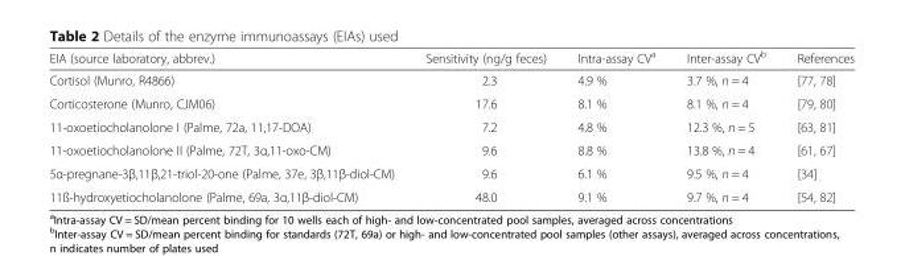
<table><thead><tr><td>EIA (source laboratory, abbrev.)</td><td>Sensitivity (ng/g feces)</td><td>Intra-assay CV<sup>a</sup></td><td>Inter-assay CV<sup>b</sup></td><td>References</td></tr></thead><tbody><tr><td>Cortisol (Munro, R4866)</td><td>2.3</td><td>4.9 %</td><td>3.7 %, n = 4</td><td>[77, 78]</td></tr><tr><td>Corticosterone (Munro, CJM06)</td><td>17.6</td><td>8.1 %</td><td>8.1 %, n = 4</td><td>[79, 80]</td></tr><tr><td>11-oxoetiocholanolone I (Palme, 72a, 11,17-DOA)</td><td>7.2</td><td>4.8 %</td><td>12.3 %, n = 5</td><td>[63, 81]</td></tr><tr><td>11-oxoetiocholanolone II (Palme, 72T, 3α,11-oxo-CM)</td><td>9.6</td><td>8.8 %</td><td>13.8 %, n = 4</td><td>[61, 67]</td></tr><tr><td>5α-pregnane-3β,11β,21-triol-20-one (Palme, 37e, 3β,11β-diol-CM)</td><td>9.6</td><td>6.1 %</td><td>9.5 %, n = 4</td><td>[34]</td></tr><tr><td>11ß-hydroxyetiocholanolone (Palme, 69a, 3α,11β-diol-CM)</td><td>48.0</td><td>9.1 %</td><td>9.7 %, n = 4</td><td>[54, 82]</td></tr></tbody></table>